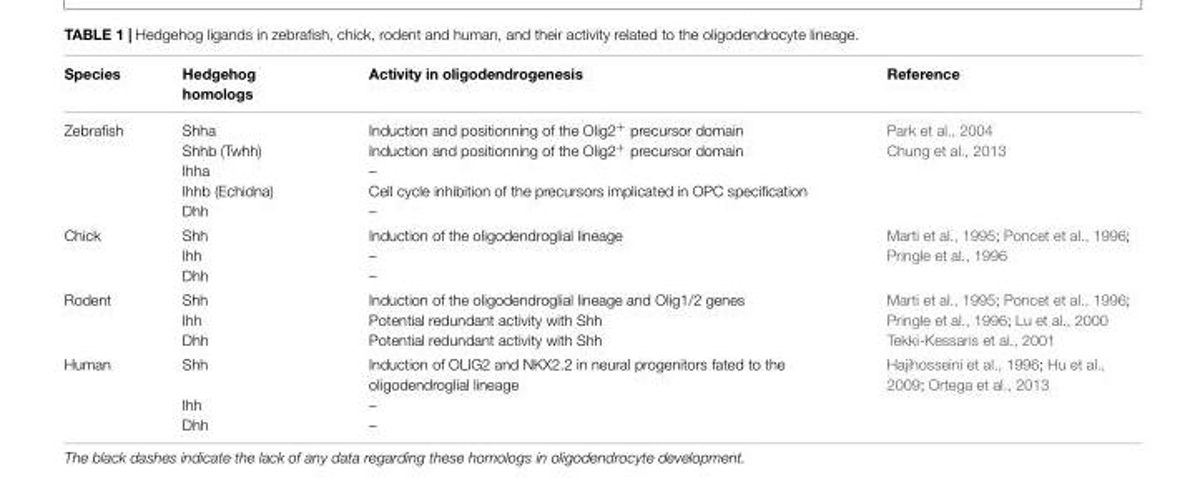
<table><thead><tr><td>Species</td><td>Hedgehog homologs</td><td>Activity in oligodendrogenesis</td><td>Reference</td></tr></thead><tbody><tr><td>Zebrafish</td><td>Shha Shhb (Twhh) Ihha Ihhb (Echidna) Dhh</td><td>Induction and positionning of the Olig2<sup>+</sup> precursor domain Induction and positionning of the Olig2<sup>+</sup> precursor domain – Cell cycle inhibition of the precursors implicated in OPC specification –</td><td>Park et al., 2004 Chung et al., 2013</td></tr><tr><td>Chick</td><td>Shh Ihh Dhh</td><td>Induction of the oligodendroglial lineage – –</td><td>Marti et al., 1995; Poncet et al., 1996; Pringle et al., 1996</td></tr><tr><td>Rodent</td><td>Shh Ihh Dhh</td><td>Induction of the oligodendroglial lineage and Olig1/2 genes Potential redundant activity with Shh Potential redundant activity with Shh</td><td>Marti et al., 1995; Poncet et al., 1996; Pringle et al., 1996; Lu et al., 2000 Tekki-Kessaris et al., 2001</td></tr><tr><td>Human</td><td>Shh Ihh Dhh</td><td>Induction of OLIG2 and NKX2.2 in neural progenitors fated to the oligodendroglial lineage – –</td><td>Hajihosseini et al., 1996; Hu et al., 2009; Ortega et al., 2013</td></tr></tbody></table>